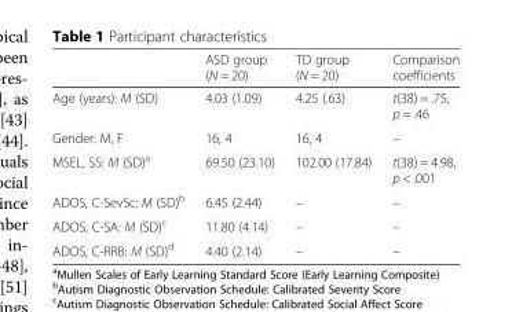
<table><thead><tr><td></td><td>ASD group (N = 20)</td><td>TD group (N = 20)</td><td>Comparison coefficients</td></tr></thead><tbody><tr><td>Age (years): M (SD)</td><td>4.03 (1.09)</td><td>4.25 (.63)</td><td>t(38) = .75, p = .46</td></tr><tr><td>Gender: M, F</td><td>16, 4</td><td>16, 4</td><td>–</td></tr><tr><td>MSEL, SS: M (SD)<sup>a</sup></td><td>69.50 (23.10)</td><td>102.00 (17.84)</td><td>t(38) = 4.98, p &lt; .001</td></tr><tr><td>ADOS, C-SevSc: M (SD)<sup>b</sup></td><td>6.45 (2.44)</td><td>–</td><td>–</td></tr><tr><td>ADOS, C-SA: M (SD)<sup>c</sup></td><td>11.80 (4.14)</td><td>–</td><td>–</td></tr><tr><td>ADOS, C-RRB: M (SD)<sup>d</sup></td><td>4.40 (2.14)</td><td>–</td><td>–</td></tr></tbody></table>